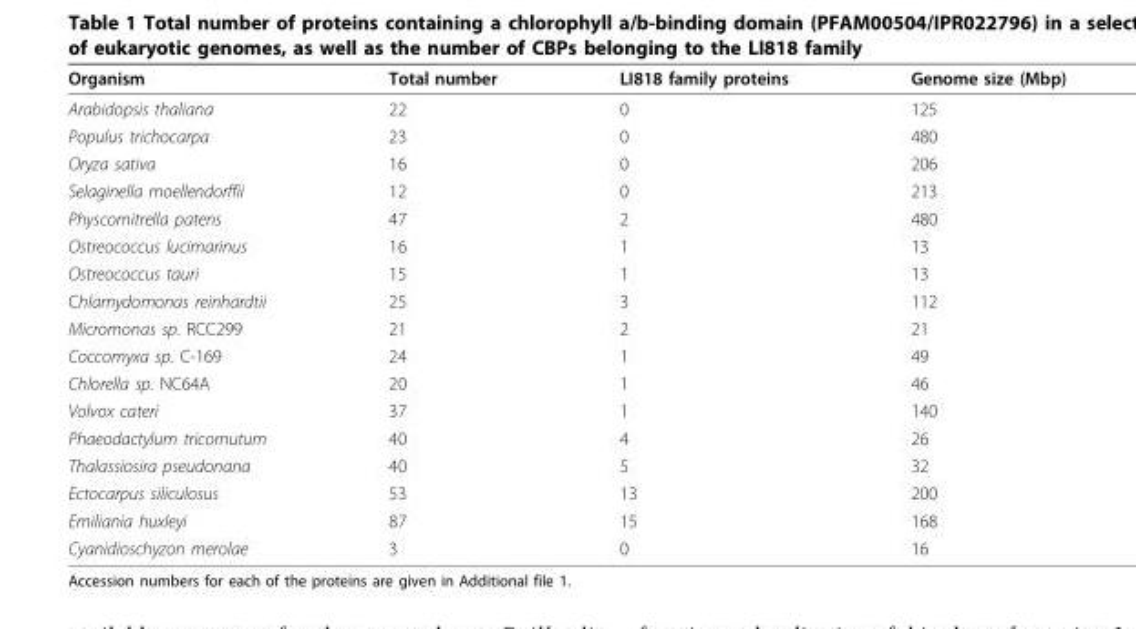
<table><thead><tr><td>Organism</td><td>Total number</td><td>LI818 family proteins</td><td>Genome size (Mbp)</td></tr></thead><tbody><tr><td>Arabidopsis thaliana</td><td>22</td><td>0</td><td>125</td></tr><tr><td>Populus trichocarpa</td><td>23</td><td>0</td><td>480</td></tr><tr><td>Oryza sativa</td><td>16</td><td>0</td><td>206</td></tr><tr><td>Selaginella moellendorffii</td><td>12</td><td>0</td><td>213</td></tr><tr><td>Physcomitrella patens</td><td>47</td><td>2</td><td>480</td></tr><tr><td>Ostreococcus lucimarinus</td><td>16</td><td>1</td><td>13</td></tr><tr><td>Ostreococcus tauri</td><td>15</td><td>1</td><td>13</td></tr><tr><td>Chlamydomonas reinhardtii</td><td>25</td><td>3</td><td>112</td></tr><tr><td>Micromonas sp. RCC299</td><td>21</td><td>2</td><td>21</td></tr><tr><td>Coccomyxa sp. C-169</td><td>24</td><td>1</td><td>49</td></tr><tr><td>Chlorella sp. NC64A</td><td>20</td><td>1</td><td>46</td></tr><tr><td>Volvox cateri</td><td>37</td><td>1</td><td>140</td></tr><tr><td>Phaeodactylum tricornutum</td><td>40</td><td>4</td><td>26</td></tr><tr><td>Thalassiosira pseudonana</td><td>40</td><td>5</td><td>32</td></tr><tr><td>Ectocarpus siliculosus</td><td>53</td><td>13</td><td>200</td></tr><tr><td>Emiliania huxleyi</td><td>87</td><td>15</td><td>168</td></tr><tr><td>Cyanidioschyzon merolae</td><td>3</td><td>0</td><td>16</td></tr></tbody></table>